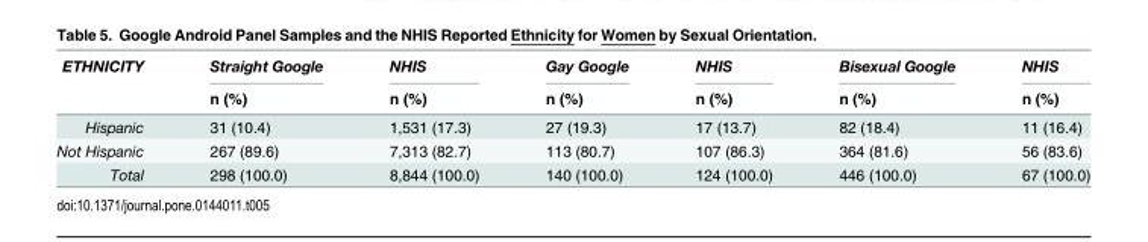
<table><thead><tr><td rowspan="2">ETHNICITY</td><td rowspan="2">Straight Google n (%)</td><td rowspan="2">NHIS n (%)</td><td rowspan="2">Gay Google n (%)</td><td rowspan="2">NHIS n (%)</td><td rowspan="2">Bisexual Google n (%)</td><td rowspan="2">NHIS n (%)</td></tr><tr></tr></thead><tbody><tr><td>Hispanic</td><td>31 (10.4)</td><td>1,531 (17.3)</td><td>27 (19.3)</td><td>17 (13.7)</td><td>82 (18.4)</td><td>11 (16.4)</td></tr><tr><td>Not Hispanic</td><td>267 (89.6)</td><td>7,313 (82.7)</td><td>113 (80.7)</td><td>107 (86.3)</td><td>364 (81.6)</td><td>56 (83.6)</td></tr><tr><td>Total</td><td>298 (100.0)</td><td>8,844 (100.0)</td><td>140 (100.0)</td><td>124 (100.0)</td><td>446 (100.0)</td><td>67 (100.0)</td></tr></tbody></table>